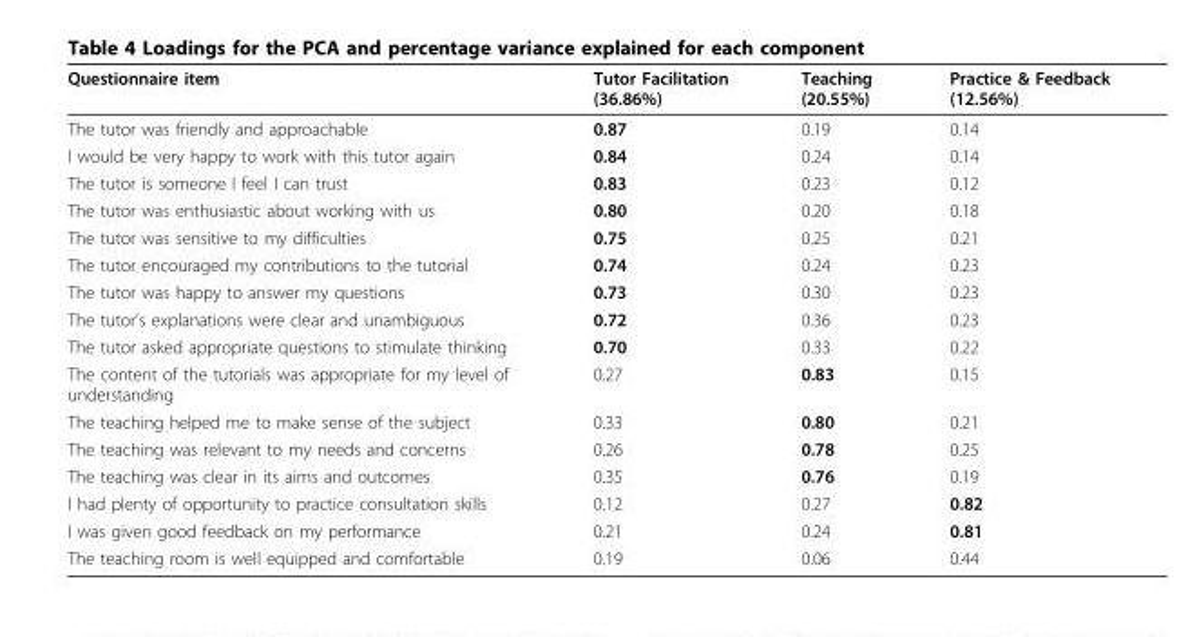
<table><thead><tr><td>Questionnaire item</td><td>Tutor Facilitation (36.86%)</td><td>Teaching (20.55%)</td><td>Practice &amp; Feedback (12.56%)</td></tr></thead><tbody><tr><td>The tutor was friendly and approachable</td><td>0.87</td><td>0.19</td><td>0.14</td></tr><tr><td>I would be very happy to work with this tutor again</td><td>0.84</td><td>0.24</td><td>0.14</td></tr><tr><td>The tutor is someone I feel I can trust</td><td>0.83</td><td>0.23</td><td>0.12</td></tr><tr><td>The tutor was enthusiastic about working with us</td><td>0.80</td><td>0.20</td><td>0.18</td></tr><tr><td>The tutor was sensitive to my difficulties</td><td>0.75</td><td>0.25</td><td>0.21</td></tr><tr><td>The tutor encouraged my contributions to the tutorial</td><td>0.74</td><td>0.24</td><td>0.23</td></tr><tr><td>The tutor was happy to answer my questions</td><td>0.73</td><td>0.30</td><td>0.23</td></tr><tr><td>The tutor’s explanations were clear and unambiguous</td><td>0.72</td><td>0.36</td><td>0.23</td></tr><tr><td>The tutor asked appropriate questions to stimulate thinking</td><td>0.70</td><td>0.33</td><td>0.22</td></tr><tr><td>The content of the tutorials was appropriate for my level of understanding</td><td>0.27</td><td>0.83</td><td>0.15</td></tr><tr><td>The teaching helped me to make sense of the subject</td><td>0.33</td><td>0.80</td><td>0.21</td></tr><tr><td>The teaching was relevant to my needs and concerns</td><td>0.26</td><td>0.78</td><td>0.25</td></tr><tr><td>The teaching was clear in its aims and outcomes</td><td>0.35</td><td>0.76</td><td>0.19</td></tr><tr><td>I had plenty of opportunity to practice consultation skills</td><td>0.12</td><td>0.27</td><td>0.82</td></tr><tr><td>I was given good feedback on my performance</td><td>0.21</td><td>0.24</td><td>0.81</td></tr><tr><td>The teaching room is well equipped and comfortable</td><td>0.19</td><td>0.06</td><td>0.44</td></tr></tbody></table>